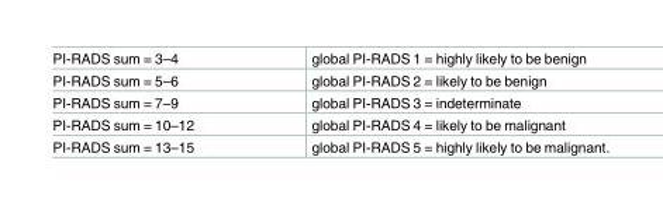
<table><tbody><tr><td>PI-RADS sum = 3–4</td><td>global PI-RADS 1 = highly likely to be benign</td></tr><tr><td>PI-RADS sum = 5–6</td><td>global PI-RADS 2 = likely to be benign</td></tr><tr><td>PI-RADS sum = 7–9</td><td>global PI-RADS 3 = indeterminate</td></tr><tr><td>PI-RADS sum = 10–12</td><td>global PI-RADS 4 = likely to be malignant</td></tr><tr><td>PI-RADS sum = 13–15</td><td>global PI-RADS 5 = highly likely to be malignant.</td></tr></tbody></table>